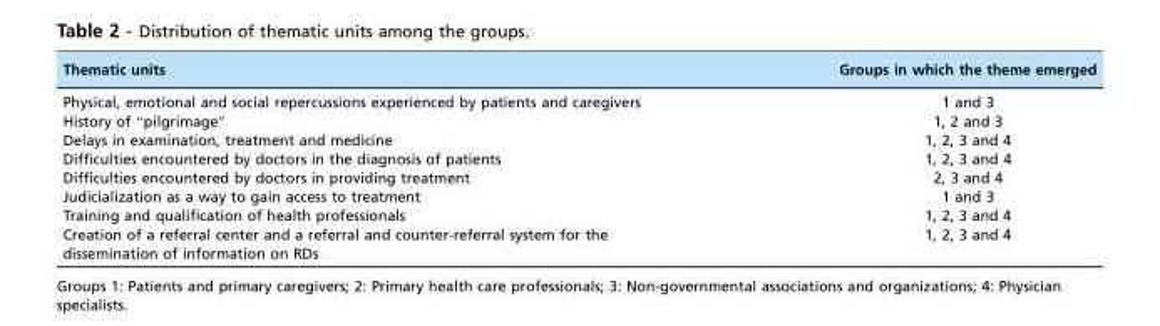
<table><thead><tr><td>Thematic units</td><td>Groups in which the theme emerged</td></tr></thead><tbody><tr><td>Physical, emotional and social repercussions experienced by patients and caregivers</td><td>1 and 3</td></tr><tr><td>History of ‘‘pilgrimage’’</td><td>1, 2 and 3</td></tr><tr><td>Delays in examination, treatment and medicine</td><td>1, 2, 3 and 4</td></tr><tr><td>Difficulties encountered by doctors in the diagnosis of patients</td><td>1, 2, 3 and 4</td></tr><tr><td>Difficulties encountered by doctors in providing treatment</td><td>2, 3 and 4</td></tr><tr><td>Judicialization as a way to gain access to treatment</td><td>1 and 3</td></tr><tr><td>Training and qualification of health professionals</td><td>1, 2, 3 and 4</td></tr><tr><td>Creation of a referral center and a referral and counter-referral system for the dissemination of information on RDs</td><td>1, 2, 3 and 4</td></tr></tbody></table>